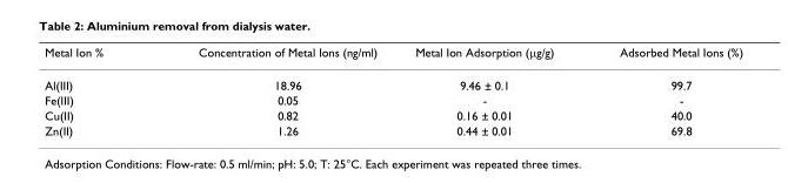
<table><thead><tr><td>Metal Ion %</td><td>Concentration of Metal Ions (ng/ml)</td><td>Metal Ion Adsorption (µg/g)</td><td>Adsorbed Metal Ions (%)</td></tr></thead><tbody><tr><td>Al(III)</td><td>18.96</td><td>9.46 ± 0.1</td><td>99.7</td></tr><tr><td>Fe(III)</td><td>0.05</td><td>-</td><td>-</td></tr><tr><td>Cu(II)</td><td>0.82</td><td>0.16 ± 0.01</td><td>40.0</td></tr><tr><td>Zn(II)</td><td>1.26</td><td>0.44 ± 0.01</td><td>69.8</td></tr></tbody></table>